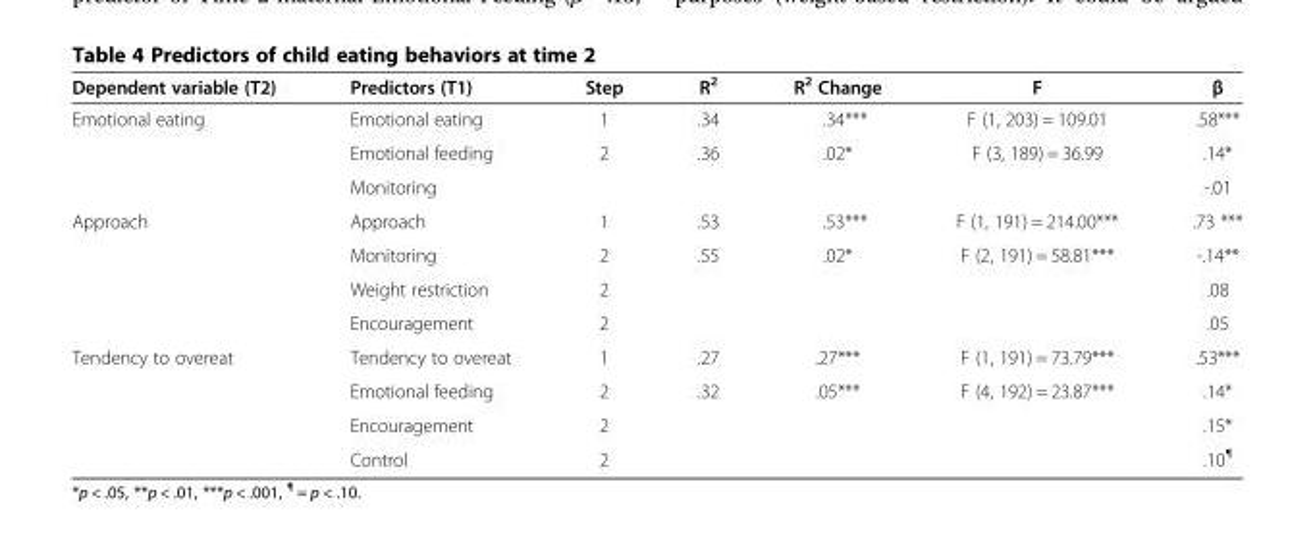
<table><thead><tr><td>Dependent variable (T2)</td><td>Predictors (T1)</td><td>Step</td><td>R<sup>2</sup></td><td>R<sup>2</sup> Change</td><td>F</td><td>β</td></tr></thead><tbody><tr><td rowspan="3">Emotional eating</td><td>Emotional eating</td><td>1</td><td>.34</td><td>.34***</td><td>F (1, 203) = 109.01</td><td>.58***</td></tr><tr><td>Emotional feeding</td><td>2</td><td>.36</td><td>.02*</td><td>F (3, 189) = 36.99</td><td>.14*</td></tr><tr><td>Monitoring</td><td></td><td></td><td></td><td></td><td>-.01</td></tr><tr><td rowspan="4">Approach</td><td>Approach</td><td>1</td><td>.53</td><td>.53***</td><td>F (1, 191) = 214.00***</td><td>.73 ***</td></tr><tr><td>Monitoring</td><td>2</td><td>.55</td><td>.02*</td><td>F (2, 191) = 58.81***</td><td>-.14**</td></tr><tr><td>Weight restriction</td><td>2</td><td></td><td></td><td></td><td>.08</td></tr><tr><td>Encouragement</td><td>2</td><td></td><td></td><td></td><td>.05</td></tr><tr><td rowspan="4">Tendency to overeat</td><td>Tendency to overeat</td><td>1</td><td>.27</td><td>.27***</td><td>F (1, 191) = 73.79***</td><td>.53***</td></tr><tr><td>Emotional feeding</td><td>2</td><td>.32</td><td>.05***</td><td>F (4, 192) = 23.87***</td><td>.14*</td></tr><tr><td>Encouragement</td><td>2</td><td></td><td></td><td></td><td>.15*</td></tr><tr><td>Control</td><td>2</td><td></td><td></td><td></td><td>.10<sup>¶</sup></td></tr></tbody></table>